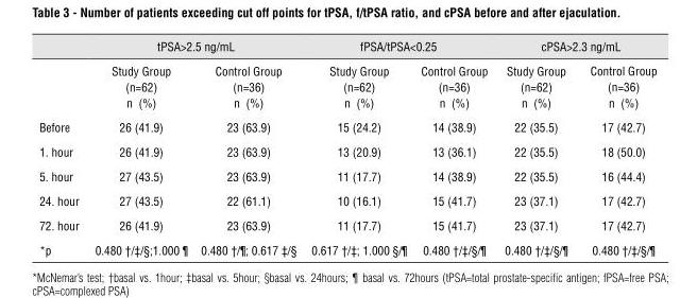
<table><thead><tr><td rowspan="2"></td><td colspan="2">tPSA&gt;2.5 ng/mL</td><td colspan="2">fPSA/tPSA&lt;0.25</td><td colspan="2">cPSA&gt;2.3 ng/mL</td></tr><tr><td>Study Group (n=62) n (%)</td><td>Control Group (n=36) n (%)</td><td>Study Group (n=62) n (%)</td><td>Control Group (n=36) n (%)</td><td>Study Group (n=62) n (%)</td><td>Control Group (n=36) n (%)</td></tr></thead><tbody><tr><td>Before</td><td>26 (41.9)</td><td>23 (63.9)</td><td>15 (24.2)</td><td>14 (38.9)</td><td>22 (35.5)</td><td>17 (42.7)</td></tr><tr><td>1. hour</td><td>26 (41.9)</td><td>23 (63.9)</td><td>13 (20.9)</td><td>13 (36.1)</td><td>22 (35.5)</td><td>18 (50.0)</td></tr><tr><td>5. hour</td><td>27 (43.5)</td><td>23 (63.9)</td><td>11 (17.7)</td><td>14 (38.9)</td><td>22 (35.5)</td><td>16 (44.4)</td></tr><tr><td>24. hour</td><td>27 (43.5)</td><td>22 (61.1)</td><td>10 (16.1)</td><td>15 (41.7)</td><td>23 (37.1)</td><td>17 (42.7)</td></tr><tr><td>72. hour</td><td>26 (41.9)</td><td>23 (63.9)</td><td>11 (17.7)</td><td>15 (41.7)</td><td>23 (37.1)</td><td>17 (42.7)</td></tr><tr><td>*p</td><td>0.480 †/‡/§;1.000 ¶</td><td>0.480 †/¶; 0.617 ‡/§</td><td>0.617 †/‡; 1.000 §/¶</td><td>0.480 †/‡/§/¶</td><td>0.480 †/‡/§/¶</td><td>0.480 †/‡/§/¶</td></tr></tbody></table>